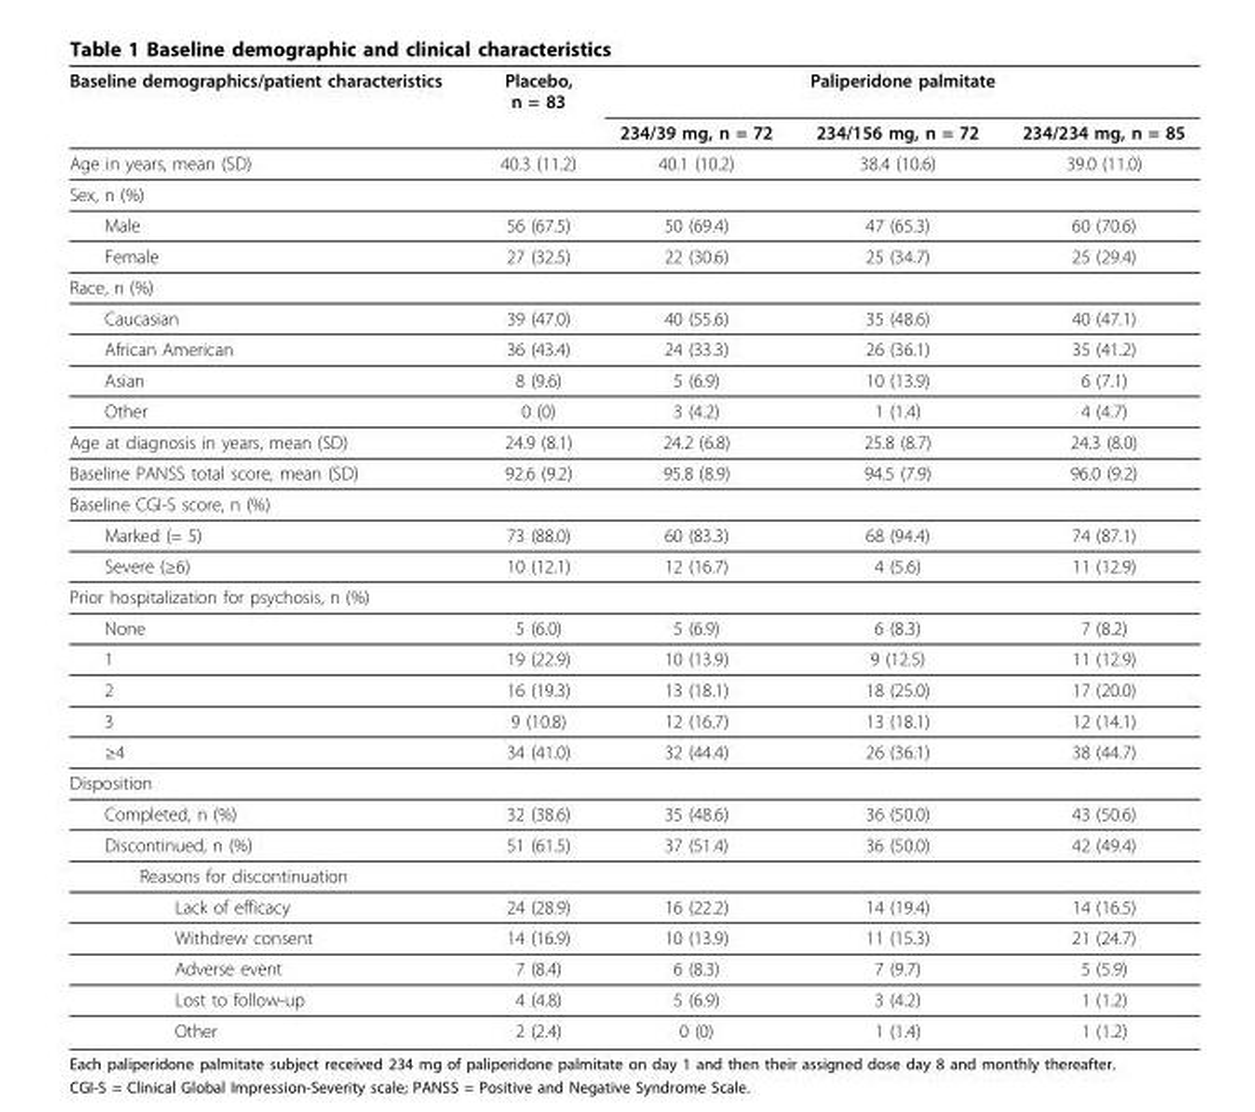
<table><thead><tr><td rowspan="2">Baseline demographics/patient characteristics</td><td rowspan="2">Placebo, n = 83</td><td colspan="3">Paliperidone palmitate</td></tr><tr><td>234/39 mg, n = 72</td><td>234/156 mg, n = 72</td><td>234/234 mg, n = 85</td></tr></thead><tbody><tr><td>Age in years, mean (SD)</td><td>40.3 (11.2)</td><td>40.1 (10.2)</td><td>38.4 (10.6)</td><td>39.0 (11.0)</td></tr><tr><td colspan="5">Sex, n (%)</td></tr><tr><td>Male</td><td>56 (67.5)</td><td>50 (69.4)</td><td>47 (65.3)</td><td>60 (70.6)</td></tr><tr><td>Female</td><td>27 (32.5)</td><td>22 (30.6)</td><td>25 (34.7)</td><td>25 (29.4)</td></tr><tr><td colspan="5">Race, n (%)</td></tr><tr><td>Caucasian</td><td>39 (47.0)</td><td>40 (55.6)</td><td>35 (48.6)</td><td>40 (47.1)</td></tr><tr><td>African American</td><td>36 (43.4)</td><td>24 (33.3)</td><td>26 (36.1)</td><td>35 (41.2)</td></tr><tr><td>Asian</td><td>8 (9.6)</td><td>5 (6.9)</td><td>10 (13.9)</td><td>6 (7.1)</td></tr><tr><td>Other</td><td>0 (0)</td><td>3 (4.2)</td><td>1 (1.4)</td><td>4 (4.7)</td></tr><tr><td>Age at diagnosis in years, mean (SD)</td><td>24.9 (8.1)</td><td>24.2 (6.8)</td><td>25.8 (8.7)</td><td>24.3 (8.0)</td></tr><tr><td>Baseline PANSS total score, mean (SD)</td><td>92.6 (9.2)</td><td>95.8 (8.9)</td><td>94.5 (7.9)</td><td>96.0 (9.2)</td></tr><tr><td colspan="5">Baseline CGI-S score, n (%)</td></tr><tr><td>Marked (= 5)</td><td>73 (88.0)</td><td>60 (83.3)</td><td>68 (94.4)</td><td>74 (87.1)</td></tr><tr><td>Severe (≥6)</td><td>10 (12.1)</td><td>12 (16.7)</td><td>4 (5.6)</td><td>11 (12.9)</td></tr><tr><td colspan="5">Prior hospitalization for psychosis, n (%)</td></tr><tr><td>None</td><td>5 (6.0)</td><td>5 (6.9)</td><td>6 (8.3)</td><td>7 (8.2)</td></tr><tr><td>1</td><td>19 (22.9)</td><td>10 (13.9)</td><td>9 (12.5)</td><td>11 (12.9)</td></tr><tr><td>2</td><td>16 (19.3)</td><td>13 (18.1)</td><td>18 (25.0)</td><td>17 (20.0)</td></tr><tr><td>3</td><td>9 (10.8)</td><td>12 (16.7)</td><td>13 (18.1)</td><td>12 (14.1)</td></tr><tr><td>≥4</td><td>34 (41.0)</td><td>32 (44.4)</td><td>26 (36.1)</td><td>38 (44.7)</td></tr><tr><td colspan="5">Disposition</td></tr><tr><td>Completed, n (%)</td><td>32 (38.6)</td><td>35 (48.6)</td><td>36 (50.0)</td><td>43 (50.6)</td></tr><tr><td>Discontinued, n (%)</td><td>51 (61.5)</td><td>37 (51.4)</td><td>36 (50.0)</td><td>42 (49.4)</td></tr><tr><td colspan="5">Reasons for discontinuation</td></tr><tr><td>Lack of efficacy</td><td>24 (28.9)</td><td>16 (22.2)</td><td>14 (19.4)</td><td>14 (16.5)</td></tr><tr><td>Withdrew consent</td><td>14 (16.9)</td><td>10 (13.9)</td><td>11 (15.3)</td><td>21 (24.7)</td></tr><tr><td>Adverse event</td><td>7 (8.4)</td><td>6 (8.3)</td><td>7 (9.7)</td><td>5 (5.9)</td></tr><tr><td>Lost to follow-up</td><td>4 (4.8)</td><td>5 (6.9)</td><td>3 (4.2)</td><td>1 (1.2)</td></tr><tr><td>Other</td><td>2 (2.4)</td><td>0 (0)</td><td>1 (1.4)</td><td>1 (1.2)</td></tr></tbody></table>